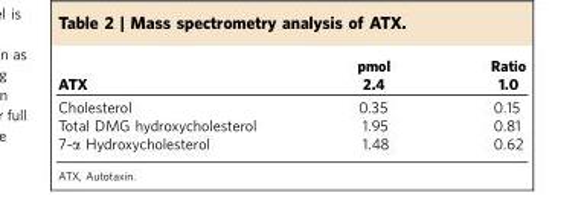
<table><thead><tr><td rowspan="2">ATX</td><td rowspan="2">pmol 2.4</td><td rowspan="2">Ratio 1.0</td></tr><tr></tr></thead><tbody><tr><td>Cholesterol</td><td>0.35</td><td>0.15</td></tr><tr><td>Total DMG hydroxycholesterol</td><td>1.95</td><td>0.81</td></tr><tr><td>7-α Hydroxycholesterol</td><td>1.48</td><td>0.62</td></tr></tbody></table>